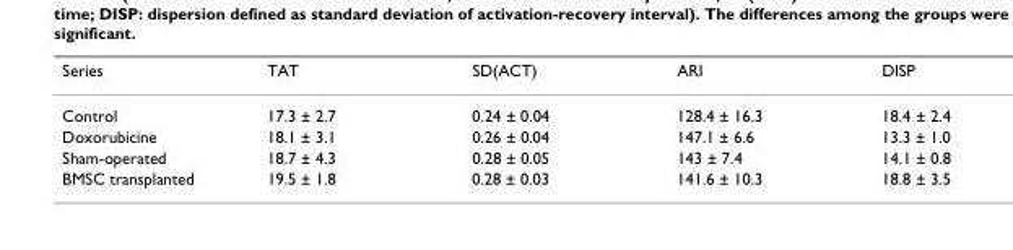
<table><thead><tr><td>Series</td><td>TAT</td><td>SD(ACT)</td><td>ARI</td><td>DISP</td></tr></thead><tbody><tr><td>Control</td><td>17.3 ± 2.7</td><td>0.24 ± 0.04</td><td>128.4 ± 16.3</td><td>18.4 ± 2.4</td></tr><tr><td>Doxorubicine</td><td>18.1 ± 3.1</td><td>0.26 ± 0.04</td><td>147.1 ± 6.6</td><td>13.3 ± 1.0</td></tr><tr><td>Sham-operated</td><td>18.7 ± 4.3</td><td>0.28 ± 0.05</td><td>143 ± 7.4</td><td>14.1 ± 0.8</td></tr><tr><td>BMSC transplanted</td><td>19.5 ± 1.8</td><td>0.28 ± 0.03</td><td>141.6 ± 10.3</td><td>18.8 ± 3.5</td></tr></tbody></table>